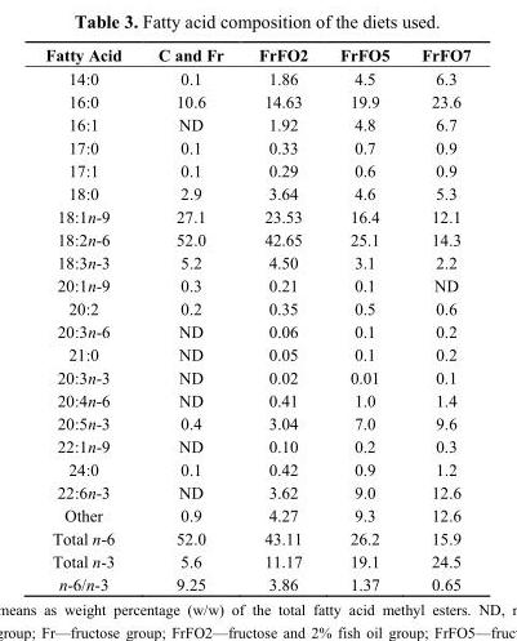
<table><thead><tr><td>Fatty Acid</td><td>C and Fr</td><td>FrFO2</td><td>FrFO5</td><td>FrFO7</td></tr></thead><tbody><tr><td>14:0</td><td>0.1</td><td>1.86</td><td>4.5</td><td>6.3</td></tr><tr><td>16:0</td><td>10.6</td><td>14.63</td><td>19.9</td><td>23.6</td></tr><tr><td>16:1</td><td>ND</td><td>1.92</td><td>4.8</td><td>6.7</td></tr><tr><td>17:0</td><td>0.1</td><td>0.33</td><td>0.7</td><td>0.9</td></tr><tr><td>17:1</td><td>0.1</td><td>0.29</td><td>0.6</td><td>0.9</td></tr><tr><td>18:0</td><td>2.9</td><td>3.64</td><td>4.6</td><td>5.3</td></tr><tr><td>18:1n-9</td><td>27.1</td><td>23.53</td><td>16.4</td><td>12.1</td></tr><tr><td>18:2n-6</td><td>52.0</td><td>42.65</td><td>25.1</td><td>14.3</td></tr><tr><td>18:3n-3</td><td>5.2</td><td>4.50</td><td>3.1</td><td>2.2</td></tr><tr><td>20:1n-9</td><td>0.3</td><td>0.21</td><td>0.1</td><td>ND</td></tr><tr><td>20:2</td><td>0.2</td><td>0.35</td><td>0.5</td><td>0.6</td></tr><tr><td>20:3n-6</td><td>ND</td><td>0.06</td><td>0.1</td><td>0.2</td></tr><tr><td>21:0</td><td>ND</td><td>0.05</td><td>0.1</td><td>0.2</td></tr><tr><td>20:3n-3</td><td>ND</td><td>0.02</td><td>0.01</td><td>0.1</td></tr><tr><td>20:4n-6</td><td>ND</td><td>0.41</td><td>1.0</td><td>1.4</td></tr><tr><td>20:5n-3</td><td>0.4</td><td>3.04</td><td>7.0</td><td>9.6</td></tr><tr><td>22:1n-9</td><td>ND</td><td>0.10</td><td>0.2</td><td>0.3</td></tr><tr><td>24:0</td><td>0.1</td><td>0.42</td><td>0.9</td><td>1.2</td></tr><tr><td>22:6n-3</td><td>ND</td><td>3.62</td><td>9.0</td><td>12.6</td></tr><tr><td>Other</td><td>0.9</td><td>4.27</td><td>9.3</td><td>12.6</td></tr><tr><td>Total n-6</td><td>52.0</td><td>43.11</td><td>26.2</td><td>15.9</td></tr><tr><td>Total n-3</td><td>5.6</td><td>11.17</td><td>19.1</td><td>24.5</td></tr><tr><td>n-6/n-3</td><td>9.25</td><td>3.86</td><td>1.37</td><td>0.65</td></tr></tbody></table>